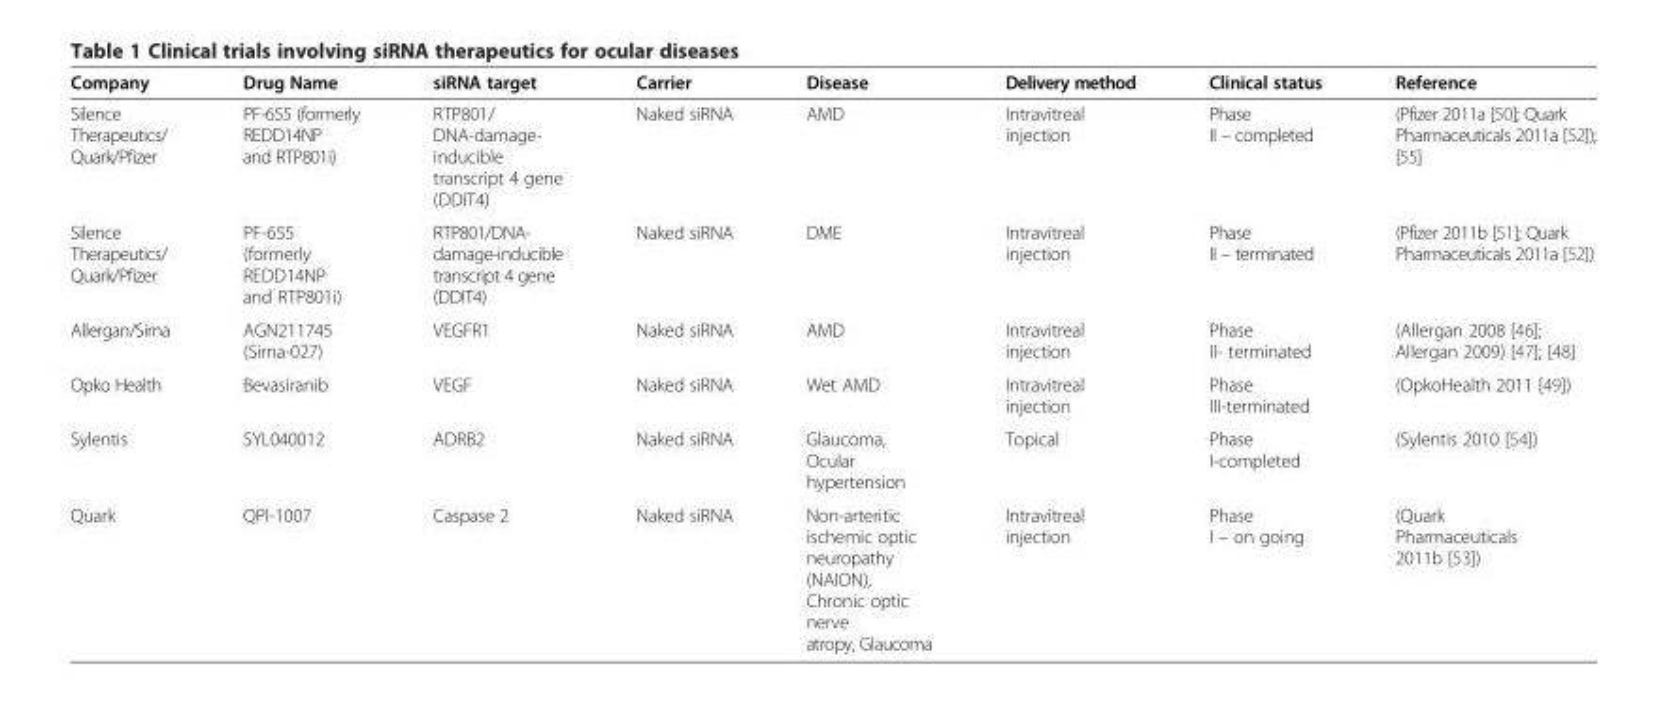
<table><thead><tr><td>Company</td><td>Drug Name</td><td>siRNA target</td><td>Carrier</td><td>Disease</td><td>Delivery method</td><td>Clinical status</td><td>Reference</td></tr></thead><tbody><tr><td>Silence Therapeutics/ Quark/Pfizer</td><td>PF-655 (formerly REDD14NP and RTP801i)</td><td>RTP801/ DNA-damage- inducible transcript 4 gene (DDIT4)</td><td>Naked siRNA</td><td>AMD</td><td>Intravitreal injection</td><td>Phase II – completed</td><td>(Pfizer 2011a [50]; Quark Pharmaceuticals 2011a [52]); [55]</td></tr><tr><td>Silence Therapeutics/ Quark/Pfizer</td><td>PF-655 (formerly REDD14NP and RTP801i)</td><td>RTP801/DNA- damage-inducible transcript 4 gene (DDIT4)</td><td>Naked siRNA</td><td>DME</td><td>Intravitreal injection</td><td>Phase II – terminated</td><td>(Pfizer 2011b [51]; Quark Pharmaceuticals 2011a [52])</td></tr><tr><td>Allergan/Sirna</td><td>AGN211745 (Sirna-027)</td><td>VEGFR1</td><td>Naked siRNA</td><td>AMD</td><td>Intravitreal injection</td><td>Phase II- terminated</td><td>(Allergan 2008 [46]; Allergan 2009) [47]; [48]</td></tr><tr><td>Opko Health</td><td>Bevasiranib</td><td>VEGF</td><td>Naked siRNA</td><td>Wet AMD</td><td>Intravitreal injection</td><td>Phase III-terminated</td><td>(OpkoHealth 2011 [49])</td></tr><tr><td>Sylentis</td><td>SYL040012</td><td>ADRB2</td><td>Naked siRNA</td><td>Glaucoma, Ocular hypertension</td><td>Topical</td><td>Phase I-completed</td><td>(Sylentis 2010 [54])</td></tr><tr><td>Quark</td><td>QPI-1007</td><td>Caspase 2</td><td>Naked siRNA</td><td>Non-arteritic ischemic optic neuropathy (NAION), Chronic optic nerve atropy, Glaucoma</td><td>Intravitreal injection</td><td>Phase I – on going</td><td>(Quark Pharmaceuticals 2011b [53])</td></tr></tbody></table>